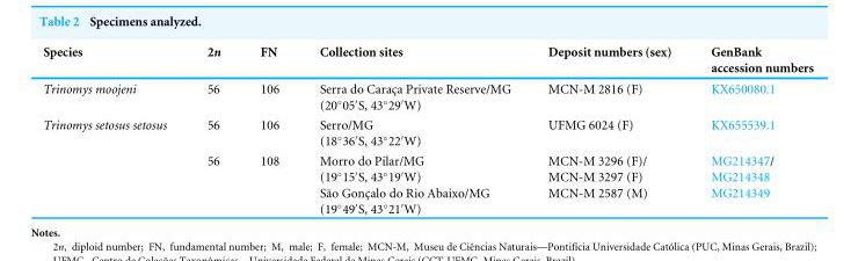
<table><thead><tr><td>Species</td><td>2n</td><td>FN</td><td>Collection sites</td><td>Deposit numbers (sex)</td><td>GenBank accession numbers</td></tr></thead><tbody><tr><td>Trinomys moojeni</td><td>56</td><td>106</td><td>Serra do Cara¸ca Private Reserve/MG (20◦05′S, 43◦29′W)</td><td>MCN-M 2816 (F)</td><td>KX650080.1</td></tr><tr><td rowspan="2">Trinomys setosus setosus</td><td>56</td><td>106</td><td>Serro/MG (18◦36′S, 43◦22′W)</td><td>UFMG 6024 (F)</td><td>KX655539.1</td></tr><tr><td>56</td><td>108</td><td>Morro do Pilar/MG (19◦15′S, 43◦19′W) São Gon¸calo do Rio Abaixo/MG (19◦49′S, 43◦21′W)</td><td>MCN-M 3296 (F)/ MCN-M 3297 (F) MCN-M 2587 (M)</td><td>MG214347/ MG214348 MG214349</td></tr></tbody></table>